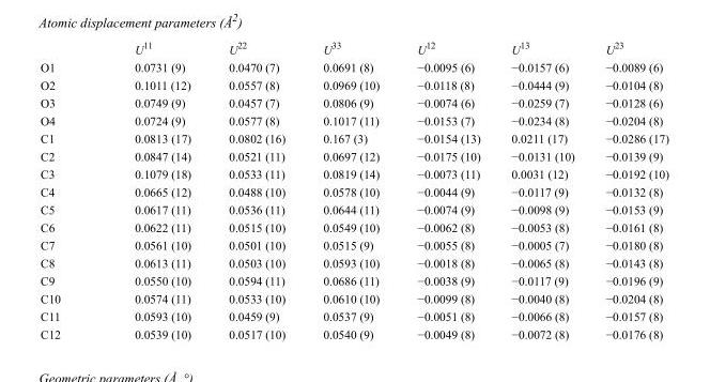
<table><thead><tr><td></td><td>U<sup>11</sup></td><td>U<sup>22</sup></td><td>U<sup>33</sup></td><td>U<sup>12</sup></td><td>U<sup>13</sup></td><td>U<sup>23</sup></td></tr></thead><tbody><tr><td>O1</td><td>0.0731 (9)</td><td>0.0470 (7)</td><td>0.0691 (8)</td><td>−0.0095 (6)</td><td>−0.0157 (6)</td><td>−0.0089 (6)</td></tr><tr><td>O2</td><td>0.1011 (12)</td><td>0.0557 (8)</td><td>0.0969 (10)</td><td>−0.0118 (8)</td><td>−0.0444 (9)</td><td>−0.0104 (8)</td></tr><tr><td>O3</td><td>0.0749 (9)</td><td>0.0457 (7)</td><td>0.0806 (9)</td><td>−0.0074 (6)</td><td>−0.0259 (7)</td><td>−0.0128 (6)</td></tr><tr><td>O4</td><td>0.0724 (9)</td><td>0.0577 (8)</td><td>0.1017 (11)</td><td>−0.0153 (7)</td><td>−0.0234 (8)</td><td>−0.0204 (8)</td></tr><tr><td>C1</td><td>0.0813 (17)</td><td>0.0802 (16)</td><td>0.167 (3)</td><td>−0.0154 (13)</td><td>0.0211 (17)</td><td>−0.0286 (17)</td></tr><tr><td>C2</td><td>0.0847 (14)</td><td>0.0521 (11)</td><td>0.0697 (12)</td><td>−0.0175 (10)</td><td>−0.0131 (10)</td><td>−0.0139 (9)</td></tr><tr><td>C3</td><td>0.1079 (18)</td><td>0.0533 (11)</td><td>0.0819 (14)</td><td>−0.0073 (11)</td><td>0.0031 (12)</td><td>−0.0192 (10)</td></tr><tr><td>C4</td><td>0.0665 (12)</td><td>0.0488 (10)</td><td>0.0578 (10)</td><td>−0.0044 (9)</td><td>−0.0117 (9)</td><td>−0.0132 (8)</td></tr><tr><td>C5</td><td>0.0617 (11)</td><td>0.0536 (11)</td><td>0.0644 (11)</td><td>−0.0074 (9)</td><td>−0.0098 (9)</td><td>−0.0153 (9)</td></tr><tr><td>C6</td><td>0.0622 (11)</td><td>0.0515 (10)</td><td>0.0549 (10)</td><td>−0.0062 (8)</td><td>−0.0053 (8)</td><td>−0.0161 (8)</td></tr><tr><td>C7</td><td>0.0561 (10)</td><td>0.0501 (10)</td><td>0.0515 (9)</td><td>−0.0055 (8)</td><td>−0.0005 (7)</td><td>−0.0180 (8)</td></tr><tr><td>C8</td><td>0.0613 (11)</td><td>0.0503 (10)</td><td>0.0593 (10)</td><td>−0.0018 (8)</td><td>−0.0065 (8)</td><td>−0.0143 (8)</td></tr><tr><td>C9</td><td>0.0550 (10)</td><td>0.0594 (11)</td><td>0.0686 (11)</td><td>−0.0038 (9)</td><td>−0.0117 (9)</td><td>−0.0196 (9)</td></tr><tr><td>C10</td><td>0.0574 (11)</td><td>0.0533 (10)</td><td>0.0610 (10)</td><td>−0.0099 (8)</td><td>−0.0040 (8)</td><td>−0.0204 (8)</td></tr><tr><td>C11</td><td>0.0593 (10)</td><td>0.0459 (9)</td><td>0.0537 (9)</td><td>−0.0051 (8)</td><td>−0.0066 (8)</td><td>−0.0157 (8)</td></tr><tr><td>C12</td><td>0.0539 (10)</td><td>0.0517 (10)</td><td>0.0540 (9)</td><td>−0.0049 (8)</td><td>−0.0072 (8)</td><td>−0.0176 (8)</td></tr></tbody></table>